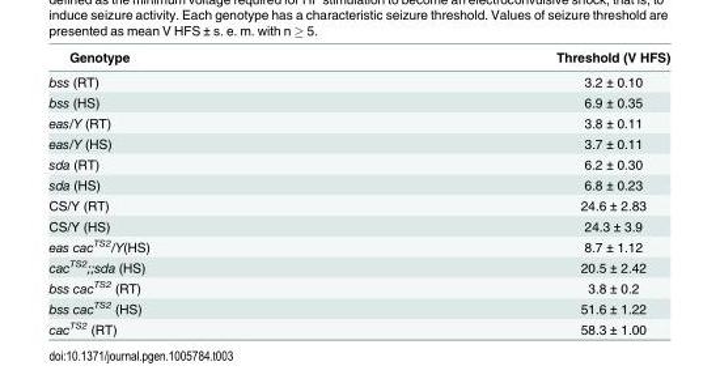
<table><thead><tr><td>Genotype</td><td>Threshold (V HFS)</td></tr></thead><tbody><tr><td>bss (RT)</td><td>3.2 ± 0.10</td></tr><tr><td>bss (HS)</td><td>6.9 ± 0.35</td></tr><tr><td>eas/Y (RT)</td><td>3.8 ± 0.11</td></tr><tr><td>eas/Y (HS)</td><td>3.7 ± 0.11</td></tr><tr><td>sda (RT)</td><td>6.2 ± 0.30</td></tr><tr><td>sda (HS)</td><td>6.8 ± 0.23</td></tr><tr><td>CS/Y (RT)</td><td>24.6 ± 2.83</td></tr><tr><td>CS/Y (HS)</td><td>24.3 ± 3.9</td></tr><tr><td>eas cac<sup>TS2</sup>/Y(HS)</td><td>8.7 ± 1.12</td></tr><tr><td>cac<sup>TS2</sup>;;sda (HS)</td><td>20.5 ± 2.42</td></tr><tr><td>bss cac<sup>TS2</sup> (RT)</td><td>3.8 ± 0.2</td></tr><tr><td>bss cac<sup>TS2</sup> (HS)</td><td>51.6 ± 1.22</td></tr><tr><td>cac<sup>TS2</sup> (RT)</td><td>58.3 ± 1.00</td></tr></tbody></table>